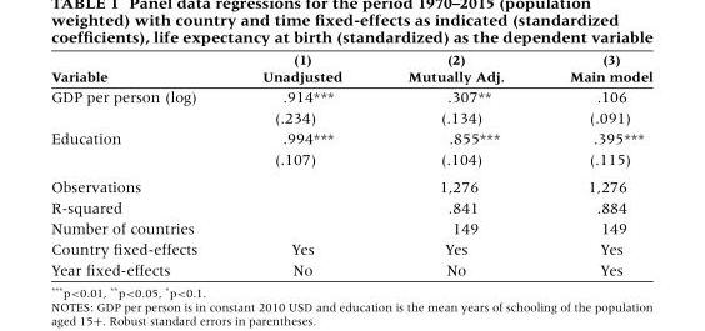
<table><thead><tr><td rowspan="2">Variable</td><td rowspan="2">(1) Unadjusted</td><td rowspan="2">(2) Mutually Adj.</td><td rowspan="2">(3) Main model</td></tr><tr></tr></thead><tbody><tr><td rowspan="2">GDP per person (log)</td><td>.914***</td><td>.307**</td><td>.106</td></tr><tr><td>(.234)</td><td>(.134)</td><td>(.091)</td></tr><tr><td rowspan="2">Education</td><td>.994***</td><td>.855***</td><td>.395***</td></tr><tr><td>(.107)</td><td>(.104)</td><td>(.115)</td></tr><tr><td>Observations</td><td></td><td>1,276</td><td>1,276</td></tr><tr><td>R-squared</td><td></td><td>.841</td><td>.884</td></tr><tr><td>Number of countries</td><td></td><td>149</td><td>149</td></tr><tr><td>Country fixed-effects</td><td>Yes</td><td>Yes</td><td>Yes</td></tr><tr><td>Year fixed-effects</td><td>No</td><td>No</td><td>Yes</td></tr></tbody></table>